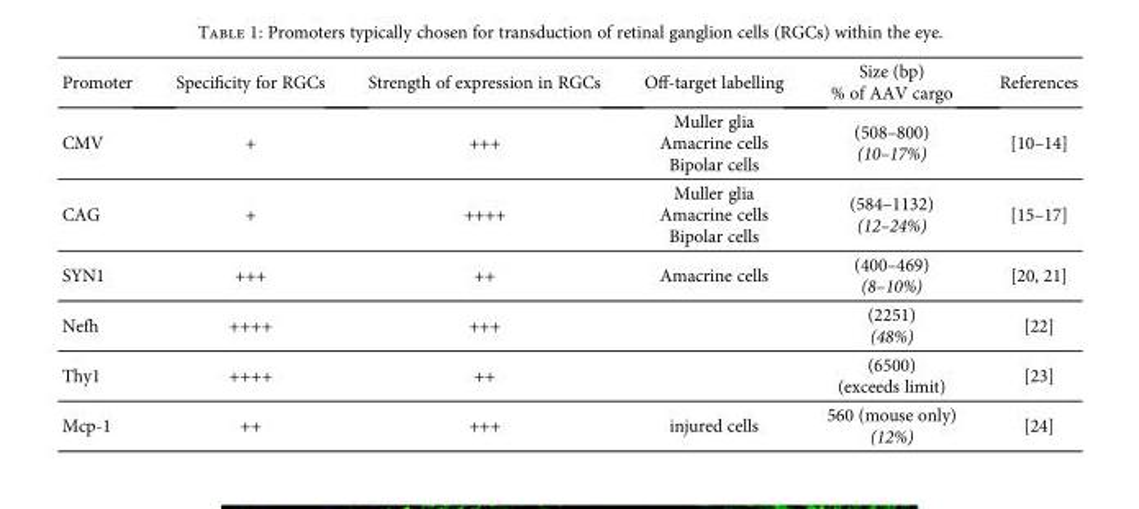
<table><thead><tr><td>Promoter</td><td>Specificity for RGCs</td><td>Strength of expression in RGCs</td><td>Off-target labelling</td><td>Size (bp) % of AAV cargo</td><td>References</td></tr></thead><tbody><tr><td>CMV</td><td>+</td><td>+++</td><td>Muller glia Amacrine cells Bipolar cells</td><td>(508–800) (10–17%)</td><td>[10–14]</td></tr><tr><td>CAG</td><td>+</td><td>++++</td><td>Muller glia Amacrine cells Bipolar cells</td><td>(584–1132) (12–24%)</td><td>[15–17]</td></tr><tr><td>SYN1</td><td>+++</td><td>++</td><td>Amacrine cells</td><td>(400–469) (8–10%)</td><td>[20, 21]</td></tr><tr><td>Nefh</td><td>++++</td><td>+++</td><td></td><td>(2251) (48%)</td><td>[22]</td></tr><tr><td>Thy1</td><td>++++</td><td>++</td><td></td><td>(6500) (exceeds limit)</td><td>[23]</td></tr><tr><td>Mcp-1</td><td>++</td><td>+++</td><td>injured cells</td><td>560 (mouse only) (12%)</td><td>[24]</td></tr></tbody></table>